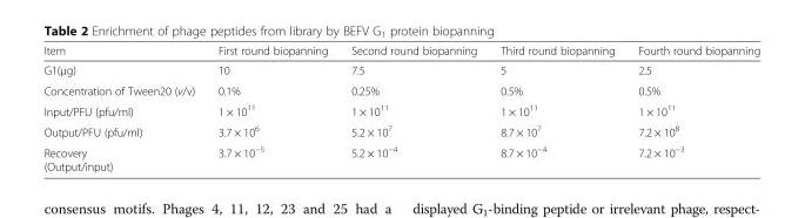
<table><thead><tr><td>Item</td><td>First round biopanning</td><td>Second round biopanning</td><td>Third round biopanning</td><td>Fourth round biopanning</td></tr></thead><tbody><tr><td>G1(μg)</td><td>10</td><td>7.5</td><td>5</td><td>2.5</td></tr><tr><td>Concentration of Tween20 (v/v)</td><td>0.1%</td><td>0.25%</td><td>0.5%</td><td>0.5%</td></tr><tr><td>Input/PFU (pfu/ml)</td><td>1 × 10<sup>11</sup></td><td>1 × 10<sup>11</sup></td><td>1 × 10<sup>11</sup></td><td>1 × 10<sup>11</sup></td></tr><tr><td>Output/PFU (pfu/ml)</td><td>3.7 × 10<sup>6</sup></td><td>5.2 × 10<sup>7</sup></td><td>8.7 × 10<sup>7</sup></td><td>7.2 × 10<sup>8</sup></td></tr><tr><td>Recovery (Output/input)</td><td>3.7 × 10<sup>−5</sup></td><td>5.2 × 10<sup>−4</sup></td><td>8.7 × 10<sup>−4</sup></td><td>7.2 × 10<sup>−3</sup></td></tr></tbody></table>